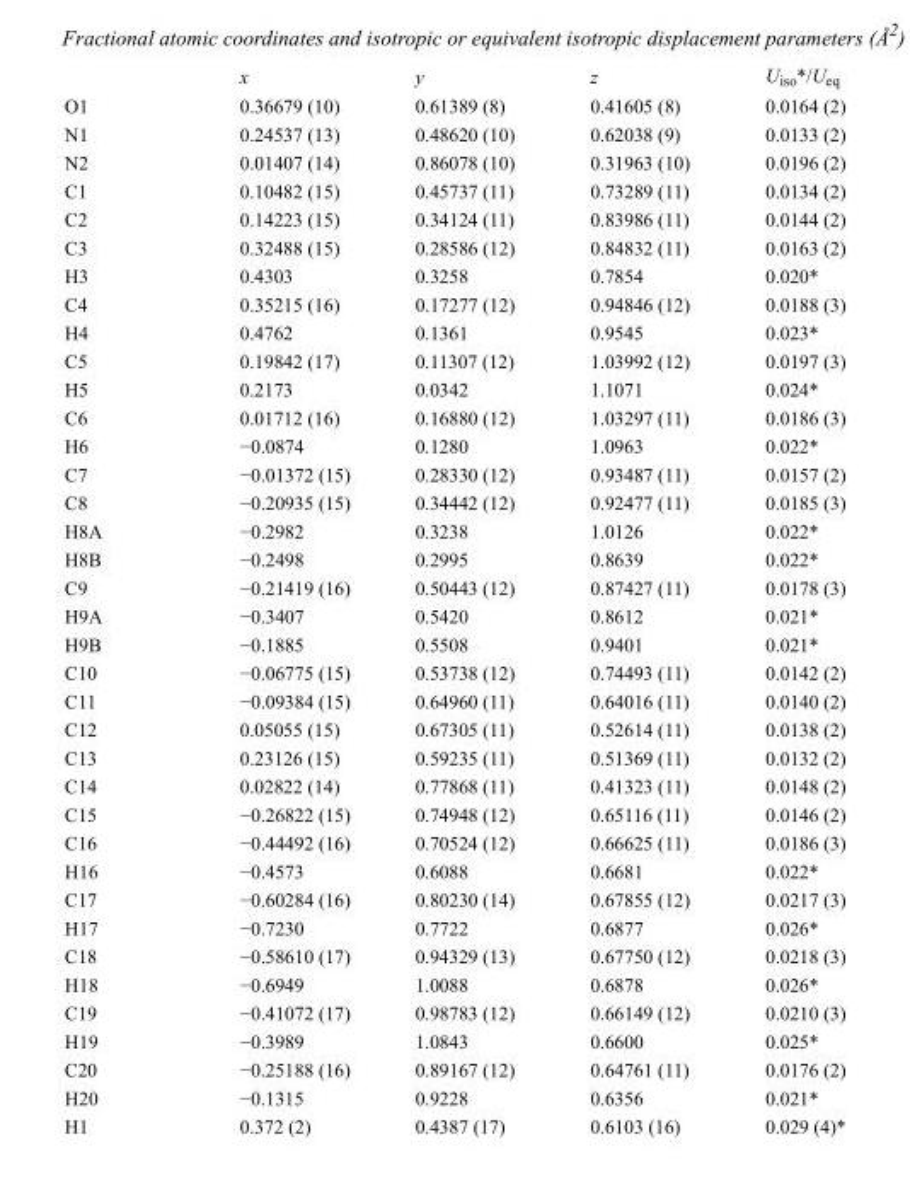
<table><thead><tr><td></td><td>x</td><td>y</td><td>z</td><td>U<sub>iso</sub>*/U<sub>eq</sub></td></tr></thead><tbody><tr><td>O1</td><td>0.36679 (10)</td><td>0.61389 (8)</td><td>0.41605 (8)</td><td>0.0164 (2)</td></tr><tr><td>N1</td><td>0.24537 (13)</td><td>0.48620 (10)</td><td>0.62038 (9)</td><td>0.0133 (2)</td></tr><tr><td>N2</td><td>0.01407 (14)</td><td>0.86078 (10)</td><td>0.31963 (10)</td><td>0.0196 (2)</td></tr><tr><td>C1</td><td>0.10482 (15)</td><td>0.45737 (11)</td><td>0.73289 (11)</td><td>0.0134 (2)</td></tr><tr><td>C2</td><td>0.14223 (15)</td><td>0.34124 (11)</td><td>0.83986 (11)</td><td>0.0144 (2)</td></tr><tr><td>C3</td><td>0.32488 (15)</td><td>0.28586 (12)</td><td>0.84832 (11)</td><td>0.0163 (2)</td></tr><tr><td>H3</td><td>0.4303</td><td>0.3258</td><td>0.7854</td><td>0.020*</td></tr><tr><td>C4</td><td>0.35215 (16)</td><td>0.17277 (12)</td><td>0.94846 (12)</td><td>0.0188 (3)</td></tr><tr><td>H4</td><td>0.4762</td><td>0.1361</td><td>0.9545</td><td>0.023*</td></tr><tr><td>C5</td><td>0.19842 (17)</td><td>0.11307 (12)</td><td>1.03992 (12)</td><td>0.0197 (3)</td></tr><tr><td>H5</td><td>0.2173</td><td>0.0342</td><td>1.1071</td><td>0.024*</td></tr><tr><td>C6</td><td>0.01712 (16)</td><td>0.16880 (12)</td><td>1.03297 (11)</td><td>0.0186 (3)</td></tr><tr><td>H6</td><td>−0.0874</td><td>0.1280</td><td>1.0963</td><td>0.022*</td></tr><tr><td>C7</td><td>−0.01372 (15)</td><td>0.28330 (12)</td><td>0.93487 (11)</td><td>0.0157 (2)</td></tr><tr><td>C8</td><td>−0.20935 (15)</td><td>0.34442 (12)</td><td>0.92477 (11)</td><td>0.0185 (3)</td></tr><tr><td>H8A</td><td>−0.2982</td><td>0.3238</td><td>1.0126</td><td>0.022*</td></tr><tr><td>H8B</td><td>−0.2498</td><td>0.2995</td><td>0.8639</td><td>0.022*</td></tr><tr><td>C9</td><td>−0.21419 (16)</td><td>0.50443 (12)</td><td>0.87427 (11)</td><td>0.0178 (3)</td></tr><tr><td>H9A</td><td>−0.3407</td><td>0.5420</td><td>0.8612</td><td>0.021*</td></tr><tr><td>H9B</td><td>−0.1885</td><td>0.5508</td><td>0.9401</td><td>0.021*</td></tr><tr><td>C10</td><td>−0.06775 (15)</td><td>0.53738 (12)</td><td>0.74493 (11)</td><td>0.0142 (2)</td></tr><tr><td>C11</td><td>−0.09384 (15)</td><td>0.64960 (11)</td><td>0.64016 (11)</td><td>0.0140 (2)</td></tr><tr><td>C12</td><td>0.05055 (15)</td><td>0.67305 (11)</td><td>0.52614 (11)</td><td>0.0138 (2)</td></tr><tr><td>C13</td><td>0.23126 (15)</td><td>0.59235 (11)</td><td>0.51369 (11)</td><td>0.0132 (2)</td></tr><tr><td>C14</td><td>0.02822 (14)</td><td>0.77868 (11)</td><td>0.41323 (11)</td><td>0.0148 (2)</td></tr><tr><td>C15</td><td>−0.26822 (15)</td><td>0.74948 (12)</td><td>0.65116 (11)</td><td>0.0146 (2)</td></tr><tr><td>C16</td><td>−0.44492 (16)</td><td>0.70524 (12)</td><td>0.66625 (11)</td><td>0.0186 (3)</td></tr><tr><td>H16</td><td>−0.4573</td><td>0.6088</td><td>0.6681</td><td>0.022*</td></tr><tr><td>C17</td><td>−0.60284 (16)</td><td>0.80230 (14)</td><td>0.67855 (12)</td><td>0.0217 (3)</td></tr><tr><td>H17</td><td>−0.7230</td><td>0.7722</td><td>0.6877</td><td>0.026*</td></tr><tr><td>C18</td><td>−0.58610 (17)</td><td>0.94329 (13)</td><td>0.67750 (12)</td><td>0.0218 (3)</td></tr><tr><td>H18</td><td>−0.6949</td><td>1.0088</td><td>0.6878</td><td>0.026*</td></tr><tr><td>C19</td><td>−0.41072 (17)</td><td>0.98783 (12)</td><td>0.66149 (12)</td><td>0.0210 (3)</td></tr><tr><td>H19</td><td>−0.3989</td><td>1.0843</td><td>0.6600</td><td>0.025*</td></tr><tr><td>C20</td><td>−0.25188 (16)</td><td>0.89167 (12)</td><td>0.64761 (11)</td><td>0.0176 (2)</td></tr><tr><td>H20</td><td>−0.1315</td><td>0.9228</td><td>0.6356</td><td>0.021*</td></tr><tr><td>H1</td><td>0.372 (2)</td><td>0.4387 (17)</td><td>0.6103 (16)</td><td>0.029 (4)*</td></tr></tbody></table>